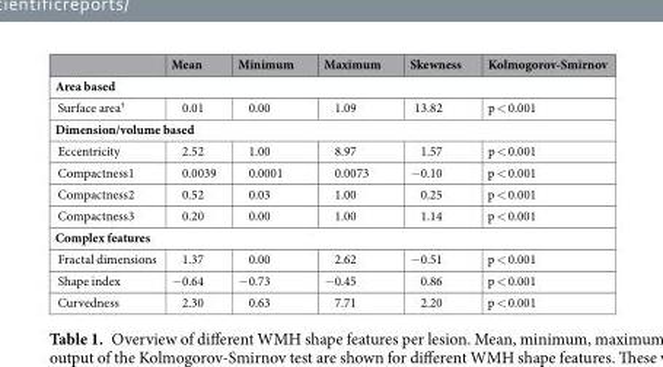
<table><thead><tr><td></td><td>Mean</td><td>Minimum</td><td>Maximum</td><td>Skewness</td><td>Kolmogorov-Smirnov</td></tr></thead><tbody><tr><td colspan="6">Area based</td></tr><tr><td>Surface area<sup>†</sup></td><td>0.01</td><td>0.00</td><td>1.09</td><td>13.82</td><td>p &lt; 0.001</td></tr><tr><td colspan="6">Dimension/volume based</td></tr><tr><td>Eccentricity</td><td>2.52</td><td>1.00</td><td>8.97</td><td>1.57</td><td>p &lt; 0.001</td></tr><tr><td>Compactness1</td><td>0.0039</td><td>0.0001</td><td>0.0073</td><td>−0.10</td><td>p &lt; 0.001</td></tr><tr><td>Compactness2</td><td>0.52</td><td>0.03</td><td>1.00</td><td>0.25</td><td>p &lt; 0.001</td></tr><tr><td>Compactness3</td><td>0.20</td><td>0.00</td><td>1.00</td><td>1.14</td><td>p &lt; 0.001</td></tr><tr><td colspan="6">Complex features</td></tr><tr><td>Fractal dimensions</td><td>1.37</td><td>0.00</td><td>2.62</td><td>−0.51</td><td>p &lt; 0.001</td></tr><tr><td>Shape index</td><td>−0.64</td><td>−0.73</td><td>−0.45</td><td>0.86</td><td>p &lt; 0.001</td></tr><tr><td>Curvedness</td><td>2.30</td><td>0.63</td><td>7.71</td><td>2.20</td><td>p &lt; 0.001</td></tr></tbody></table>